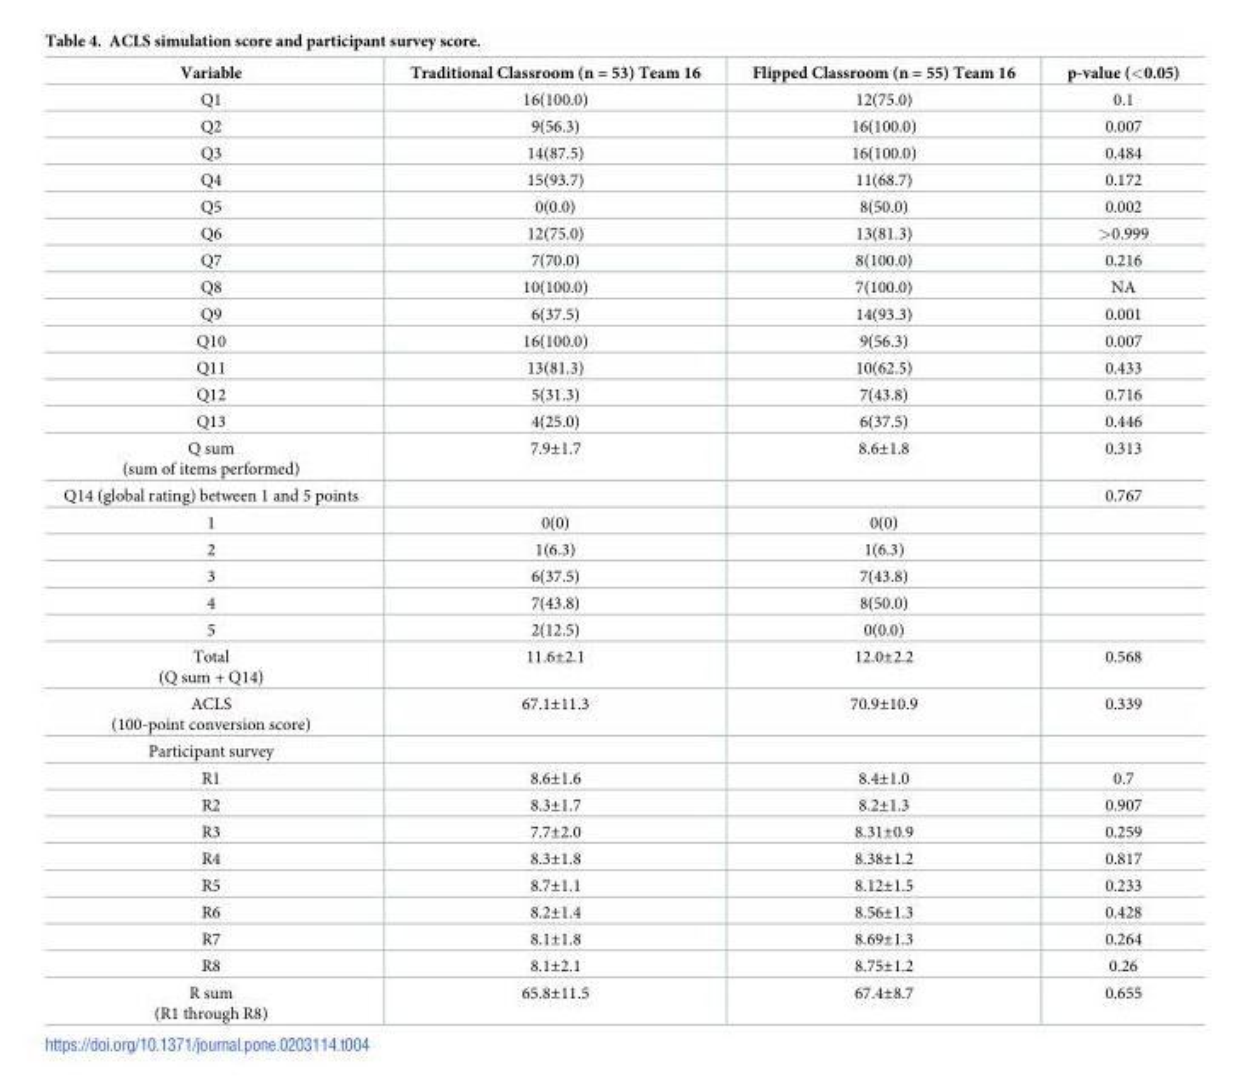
<table><thead><tr><td>Variable</td><td>Traditional Classroom (n = 53) Team 16</td><td>Flipped Classroom (n = 55) Team 16</td><td>p-value (&lt;0.05)</td></tr></thead><tbody><tr><td>Q1</td><td>16(100.0)</td><td>12(75.0)</td><td>0.1</td></tr><tr><td>Q2</td><td>9(56.3)</td><td>16(100.0)</td><td>0.007</td></tr><tr><td>Q3</td><td>14(87.5)</td><td>16(100.0)</td><td>0.484</td></tr><tr><td>Q4</td><td>15(93.7)</td><td>11(68.7)</td><td>0.172</td></tr><tr><td>Q5</td><td>0(0.0)</td><td>8(50.0)</td><td>0.002</td></tr><tr><td>Q6</td><td>12(75.0)</td><td>13(81.3)</td><td>&gt;0.999</td></tr><tr><td>Q7</td><td>7(70.0)</td><td>8(100.0)</td><td>0.216</td></tr><tr><td>Q8</td><td>10(100.0)</td><td>7(100.0)</td><td>NA</td></tr><tr><td>Q9</td><td>6(37.5)</td><td>14(93.3)</td><td>0.001</td></tr><tr><td>Q10</td><td>16(100.0)</td><td>9(56.3)</td><td>0.007</td></tr><tr><td>Q11</td><td>13(81.3)</td><td>10(62.5)</td><td>0.433</td></tr><tr><td>Q12</td><td>5(31.3)</td><td>7(43.8)</td><td>0.716</td></tr><tr><td>Q13</td><td>4(25.0)</td><td>6(37.5)</td><td>0.446</td></tr><tr><td>Q sum (sum of items performed)</td><td>7.9±1.7</td><td>8.6±1.8</td><td>0.313</td></tr><tr><td>Q14 (global rating) between 1 and 5 points</td><td></td><td></td><td>0.767</td></tr><tr><td>1</td><td>0(0)</td><td>0(0)</td><td></td></tr><tr><td>2</td><td>1(6.3)</td><td>1(6.3)</td><td></td></tr><tr><td>3</td><td>6(37.5)</td><td>7(43.8)</td><td></td></tr><tr><td>4</td><td>7(43.8)</td><td>8(50.0)</td><td></td></tr><tr><td>5</td><td>2(12.5)</td><td>0(0.0)</td><td></td></tr><tr><td>Total (Q sum + Q14)</td><td>11.6±2.1</td><td>12.0±2.2</td><td>0.568</td></tr><tr><td>ACLS (100-point conversion score)</td><td>67.1±11.3</td><td>70.9±10.9</td><td>0.339</td></tr><tr><td colspan="4">Participant survey</td></tr><tr><td>R1</td><td>8.6±1.6</td><td>8.4±1.0</td><td>0.7</td></tr><tr><td>R2</td><td>8.3±1.7</td><td>8.2±1.3</td><td>0.907</td></tr><tr><td>R3</td><td>7.7±2.0</td><td>8.31±0.9</td><td>0.259</td></tr><tr><td>R4</td><td>8.3±1.8</td><td>8.38±1.2</td><td>0.817</td></tr><tr><td>R5</td><td>8.7±1.1</td><td>8.12±1.5</td><td>0.233</td></tr><tr><td>R6</td><td>8.2±1.4</td><td>8.56±1.3</td><td>0.428</td></tr><tr><td>R7</td><td>8.1±1.8</td><td>8.69±1.3</td><td>0.264</td></tr><tr><td>R8</td><td>8.1±2.1</td><td>8.75±1.2</td><td>0.26</td></tr><tr><td>R sum (R1 through R8)</td><td>65.8±11.5</td><td>67.4±8.7</td><td>0.655</td></tr></tbody></table>